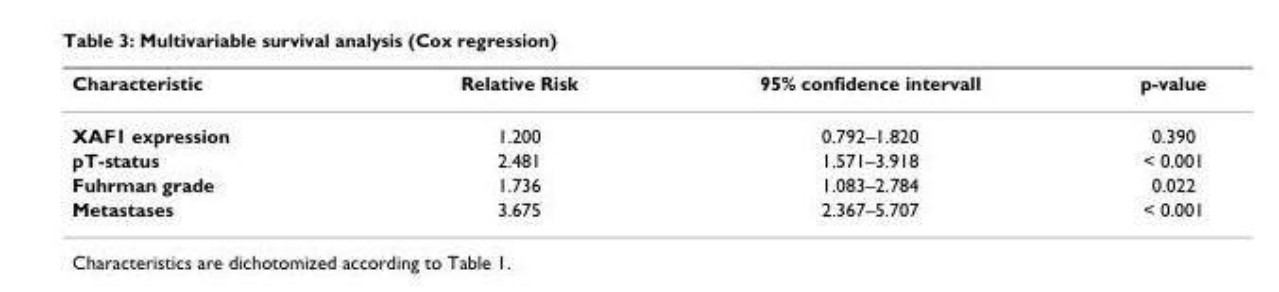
<table><thead><tr><td>Characteristic</td><td>Relative Risk</td><td>95% confidence intervall</td><td>p-value</td></tr></thead><tbody><tr><td>XAF1 expression</td><td>1.200</td><td>0.792–1.820</td><td>0.390</td></tr><tr><td>pT-status</td><td>2.481</td><td>1.571–3.918</td><td>&lt; 0.001</td></tr><tr><td>Fuhrman grade</td><td>1.736</td><td>1.083–2.784</td><td>0.022</td></tr><tr><td>Metastases</td><td>3.675</td><td>2.367–5.707</td><td>&lt; 0.001</td></tr></tbody></table>